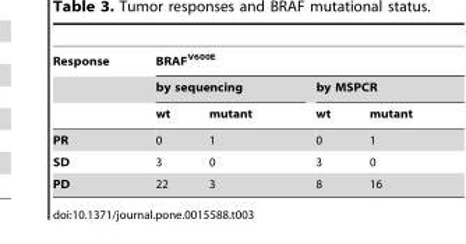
<table><thead><tr><td rowspan="3">Response</td><td colspan="4">BRAF<sup>V600E</sup></td></tr><tr><td colspan="2">by sequencing</td><td colspan="2">by MSPCR</td></tr><tr><td>wt</td><td>mutant</td><td>wt</td><td>mutant</td></tr></thead><tbody><tr><td>PR</td><td>0</td><td>1</td><td>0</td><td>1</td></tr><tr><td>SD</td><td>3</td><td>0</td><td>3</td><td>0</td></tr><tr><td>PD</td><td>22</td><td>3</td><td>8</td><td>16</td></tr></tbody></table>